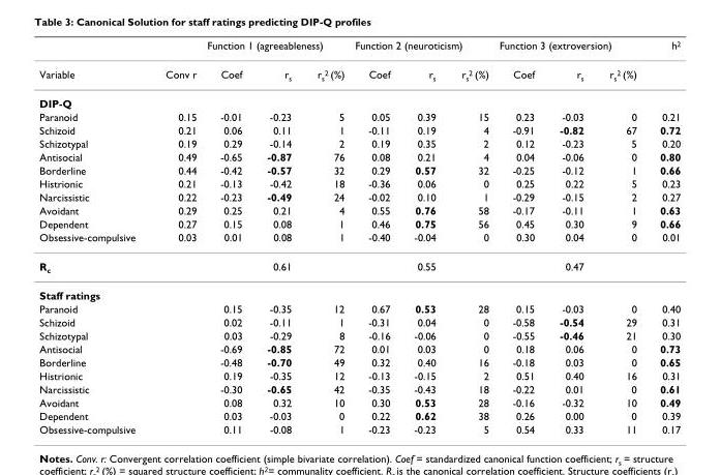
<table><thead><tr><td rowspan="2">Variable</td><td rowspan="2">Conv r</td><td colspan="3">Function 1 (agreeableness)</td><td colspan="3">Function 2 (neuroticism)</td><td colspan="3">Function 3 (extroversion)</td><td rowspan="2">h<sup>2</sup></td></tr><tr><td>Coef</td><td>r<sub>s</sub></td><td>r<sub>s</sub><sup>2</sup> (%)</td><td>Coef</td><td>r<sub>s</sub></td><td>r<sub>s</sub><sup>2</sup> (%)</td><td>Coef</td><td>r<sub>s</sub></td><td>r<sub>s</sub><sup>2</sup> (%)</td></tr></thead><tbody><tr><td colspan="12">DIP-Q</td></tr><tr><td>Paranoid</td><td>0.15</td><td>-0.01</td><td>-0.23</td><td>5</td><td>0.05</td><td>0.39</td><td>15</td><td>0.23</td><td>-0.03</td><td>0</td><td>0.21</td></tr><tr><td>Schizoid</td><td>0.21</td><td>0.06</td><td>0.11</td><td>1</td><td>-0.11</td><td>0.19</td><td>4</td><td>-0.91</td><td>-0.82</td><td>67</td><td>0.72</td></tr><tr><td>Schizotypal</td><td>0.19</td><td>0.29</td><td>-0.14</td><td>2</td><td>0.19</td><td>0.35</td><td>2</td><td>0.12</td><td>-0.23</td><td>5</td><td>0.20</td></tr><tr><td>Antisocial</td><td>0.49</td><td>-0.65</td><td>-0.87</td><td>76</td><td>0.08</td><td>0.21</td><td>4</td><td>0.04</td><td>-0.06</td><td>0</td><td>0.80</td></tr><tr><td>Borderline</td><td>0.44</td><td>-0.42</td><td>-0.57</td><td>32</td><td>0.29</td><td>0.57</td><td>32</td><td>-0.25</td><td>-0.12</td><td>1</td><td>0.66</td></tr><tr><td>Histrionic</td><td>0.21</td><td>-0.13</td><td>-0.42</td><td>18</td><td>-0.36</td><td>0.06</td><td>0</td><td>0.25</td><td>0.22</td><td>5</td><td>0.23</td></tr><tr><td>Narcissistic</td><td>0.22</td><td>-0.23</td><td>-0.49</td><td>24</td><td>-0.02</td><td>0.10</td><td>1</td><td>-0.29</td><td>-0.15</td><td>2</td><td>0.27</td></tr><tr><td>Avoidant</td><td>0.29</td><td>0.25</td><td>0.21</td><td>4</td><td>0.55</td><td>0.76</td><td>58</td><td>-0.17</td><td>-0.11</td><td>1</td><td>0.63</td></tr><tr><td>Dependent</td><td>0.27</td><td>0.15</td><td>0.08</td><td>1</td><td>0.46</td><td>0.75</td><td>56</td><td>0.45</td><td>0.30</td><td>9</td><td>0.66</td></tr><tr><td>Obsessive-compulsive</td><td>0.03</td><td>0.01</td><td>0.08</td><td>1</td><td>-0.40</td><td>-0.04</td><td>0</td><td>0.30</td><td>0.04</td><td>0</td><td>0.01</td></tr><tr><td>R<sub>c</sub></td><td></td><td></td><td>0.61</td><td></td><td></td><td>0.55</td><td></td><td></td><td>0.47</td><td></td><td></td></tr><tr><td colspan="12">Staff ratings</td></tr><tr><td>Paranoid</td><td></td><td>0.15</td><td>-0.35</td><td>12</td><td>0.67</td><td>0.53</td><td>28</td><td>0.15</td><td>-0.03</td><td>0</td><td>0.40</td></tr><tr><td>Schizoid</td><td></td><td>0.02</td><td>-0.11</td><td>1</td><td>-0.31</td><td>0.04</td><td>0</td><td>-0.58</td><td>-0.54</td><td>29</td><td>0.31</td></tr><tr><td>Schizotypal</td><td></td><td>0.03</td><td>-0.29</td><td>8</td><td>-0.16</td><td>-0.06</td><td>0</td><td>-0.55</td><td>-0.46</td><td>21</td><td>0.30</td></tr><tr><td>Antisocial</td><td></td><td>-0.69</td><td>-0.85</td><td>72</td><td>0.01</td><td>0.03</td><td>0</td><td>0.18</td><td>0.06</td><td>0</td><td>0.73</td></tr><tr><td>Borderline</td><td></td><td>-0.48</td><td>-0.70</td><td>49</td><td>0.32</td><td>0.40</td><td>16</td><td>-0.18</td><td>0.03</td><td>0</td><td>0.65</td></tr><tr><td>Histrionic</td><td></td><td>0.19</td><td>-0.35</td><td>12</td><td>-0.13</td><td>-0.15</td><td>2</td><td>0.51</td><td>0.40</td><td>16</td><td>0.31</td></tr><tr><td>Narcissistic</td><td></td><td>-0.30</td><td>-0.65</td><td>42</td><td>-0.35</td><td>-0.43</td><td>18</td><td>-0.22</td><td>0.01</td><td>0</td><td>0.61</td></tr><tr><td>Avoidant</td><td></td><td>0.08</td><td>0.32</td><td>10</td><td>0.30</td><td>0.53</td><td>28</td><td>-0.16</td><td>-0.32</td><td>10</td><td>0.49</td></tr><tr><td>Dependent</td><td></td><td>0.03</td><td>-0.03</td><td>0</td><td>0.22</td><td>0.62</td><td>38</td><td>0.26</td><td>0.00</td><td>0</td><td>0.39</td></tr><tr><td>Obsessive-compulsive</td><td></td><td>0.11</td><td>-0.08</td><td>1</td><td>-0.23</td><td>-0.23</td><td>5</td><td>0.54</td><td>0.33</td><td>11</td><td>0.17</td></tr></tbody></table>